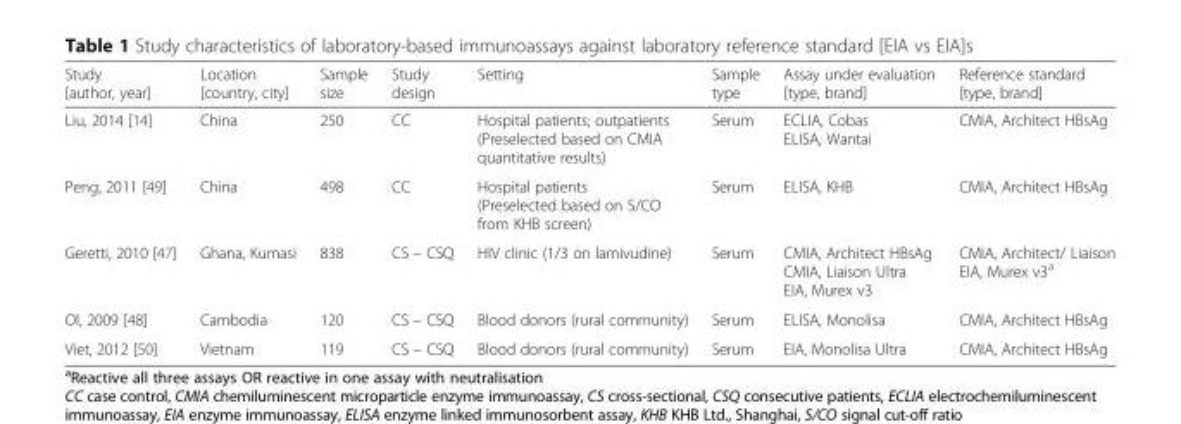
<table><thead><tr><td>Study [author, year]</td><td>Location [country, city]</td><td>Sample size</td><td>Study design</td><td>Setting</td><td>Sample type</td><td>Assay under evaluation [type, brand]</td><td>Reference standard [type, brand]</td></tr></thead><tbody><tr><td>Liu, 2014 [14]</td><td>China</td><td>250</td><td>CC</td><td>Hospital patients; outpatients (Preselected based on CMIA quantitative results)</td><td>Serum</td><td>ECLIA, Cobas ELISA, Wantai</td><td>CMIA, Architect HBsAg</td></tr><tr><td>Peng, 2011 [49]</td><td>China</td><td>498</td><td>CC</td><td>Hospital patients (Preselected based on S/CO from KHB screen)</td><td>Serum</td><td>ELISA, KHB</td><td>CMIA, Architect HBsAg</td></tr><tr><td>Geretti, 2010 [47]</td><td>Ghana, Kumasi</td><td>838</td><td>CS – CSQ</td><td>HIV clinic (1/3 on lamivudine)</td><td>Serum</td><td>CMIA, Architect HBsAg CMIA, Liaison Ultra EIA, Murex v3</td><td>CMIA, Architect/ Liaison EIA, Murex v3<sup>a</sup></td></tr><tr><td>Ol, 2009 [48]</td><td>Cambodia</td><td>120</td><td>CS – CSQ</td><td>Blood donors (rural community)</td><td>Serum</td><td>ELISA, Monolisa</td><td>CMIA, Architect HBsAg</td></tr><tr><td>Viet, 2012 [50]</td><td>Vietnam</td><td>119</td><td>CS – CSQ</td><td>Blood donors (rural community)</td><td>Serum</td><td>EIA, Monolisa Ultra</td><td>CMIA, Architect HBsAg</td></tr></tbody></table>